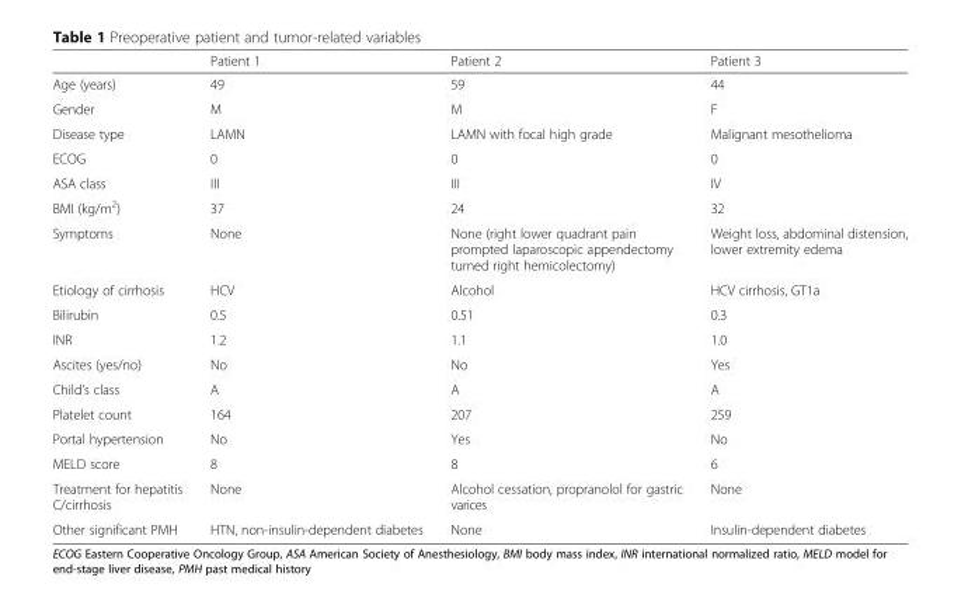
<table><thead><tr><td></td><td>Patient 1</td><td>Patient 2</td><td>Patient 3</td></tr></thead><tbody><tr><td>Age (years)</td><td>49</td><td>59</td><td>44</td></tr><tr><td>Gender</td><td>M</td><td>M</td><td>F</td></tr><tr><td>Disease type</td><td>LAMN</td><td>LAMN with focal high grade</td><td>Malignant mesothelioma</td></tr><tr><td>ECOG</td><td>0</td><td>0</td><td>0</td></tr><tr><td>ASA class</td><td>III</td><td>III</td><td>IV</td></tr><tr><td>BMI (kg/m<sup>2</sup>)</td><td>37</td><td>24</td><td>32</td></tr><tr><td>Symptoms</td><td>None</td><td>None (right lower quadrant pain prompted laparoscopic appendectomy turned right hemicolectomy)</td><td>Weight loss, abdominal distension, lower extremity edema</td></tr><tr><td>Etiology of cirrhosis</td><td>HCV</td><td>Alcohol</td><td>HCV cirrhosis, GT1a</td></tr><tr><td>Bilirubin</td><td>0.5</td><td>0.51</td><td>0.3</td></tr><tr><td>INR</td><td>1.2</td><td>1.1</td><td>1.0</td></tr><tr><td>Ascites (yes/no)</td><td>No</td><td>No</td><td>Yes</td></tr><tr><td>Child’s class</td><td>A</td><td>A</td><td>A</td></tr><tr><td>Platelet count</td><td>164</td><td>207</td><td>259</td></tr><tr><td>Portal hypertension</td><td>No</td><td>Yes</td><td>No</td></tr><tr><td>MELD score</td><td>8</td><td>8</td><td>6</td></tr><tr><td>Treatment for hepatitis C/cirrhosis</td><td>None</td><td>Alcohol cessation, propranolol for gastric varices</td><td>None</td></tr><tr><td>Other significant PMH</td><td>HTN, non-insulin-dependent diabetes</td><td>None</td><td>Insulin-dependent diabetes</td></tr></tbody></table>